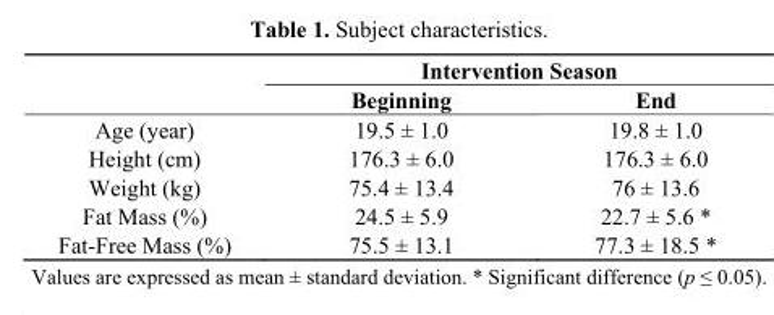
<table><thead><tr><td rowspan="2"></td><td colspan="2">Intervention Season</td></tr><tr><td>Beginning</td><td>End</td></tr></thead><tbody><tr><td>Age (year)</td><td>19.5 ± 1.0</td><td>19.8 ± 1.0</td></tr><tr><td>Height (cm)</td><td>176.3 ± 6.0</td><td>176.3 ± 6.0</td></tr><tr><td>Weight (kg)</td><td>75.4 ± 13.4</td><td>76 ± 13.6</td></tr><tr><td>Fat Mass (%)</td><td>24.5 ± 5.9</td><td>22.7 ± 5.6 *</td></tr><tr><td>Fat-Free Mass (%)</td><td>75.5 ± 13.1</td><td>77.3 ± 18.5 *</td></tr></tbody></table>